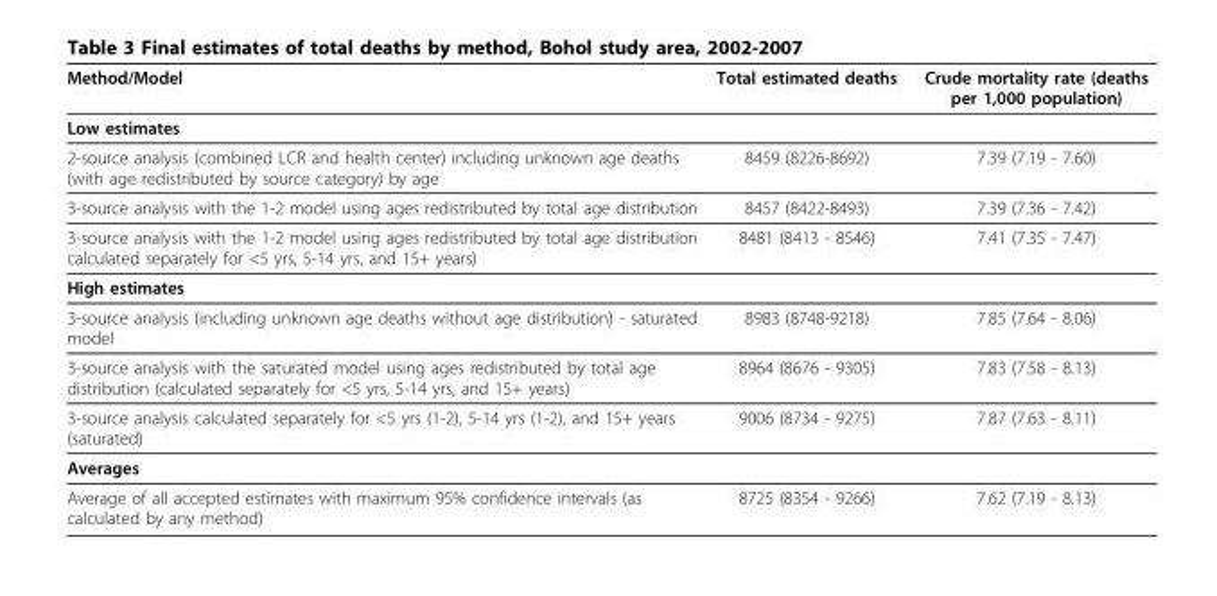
<table><thead><tr><td>Method/Model</td><td>Total estimated deaths</td><td>Crude mortality rate (deaths per 1,000 population)</td></tr></thead><tbody><tr><td colspan="3">Low estimates</td></tr><tr><td>2-source analysis (combined LCR and health center) including unknown age deaths (with age redistributed by source category) by age</td><td>8459 (8226-8692)</td><td>7.39 (7.19 - 7.60)</td></tr><tr><td>3-source analysis with the 1-2 model using ages redistributed by total age distribution</td><td>8457 (8422-8493)</td><td>7.39 (7.36 - 7.42)</td></tr><tr><td>3-source analysis with the 1-2 model using ages redistributed by total age distribution calculated separately for &lt;5 yrs, 5-14 yrs, and 15+ years)</td><td>8481 (8413 - 8546)</td><td>7.41 (7.35 - 7.47)</td></tr><tr><td colspan="3">High estimates</td></tr><tr><td>3-source analysis (including unknown age deaths without age distribution) - saturated model</td><td>8983 (8748-9218)</td><td>7.85 (7.64 - 8.06)</td></tr><tr><td>3-source analysis with the saturated model using ages redistributed by total age distribution (calculated separately for &lt;5 yrs, 5-14 yrs, and 15+ years)</td><td>8964 (8676 - 9305)</td><td>7.83 (7.58 - 8.13)</td></tr><tr><td>3-source analysis calculated separately for &lt;5 yrs (1-2), 5-14 yrs (1-2), and 15+ years (saturated)</td><td>9006 (8734 - 9275)</td><td>7.87 (7.63 - 8.11)</td></tr><tr><td colspan="3">Averages</td></tr><tr><td>Average of all accepted estimates with maximum 95% confidence intervals (as calculated by any method)</td><td>8725 (8354 - 9266)</td><td>7.62 (7.19 - 8.13)</td></tr></tbody></table>